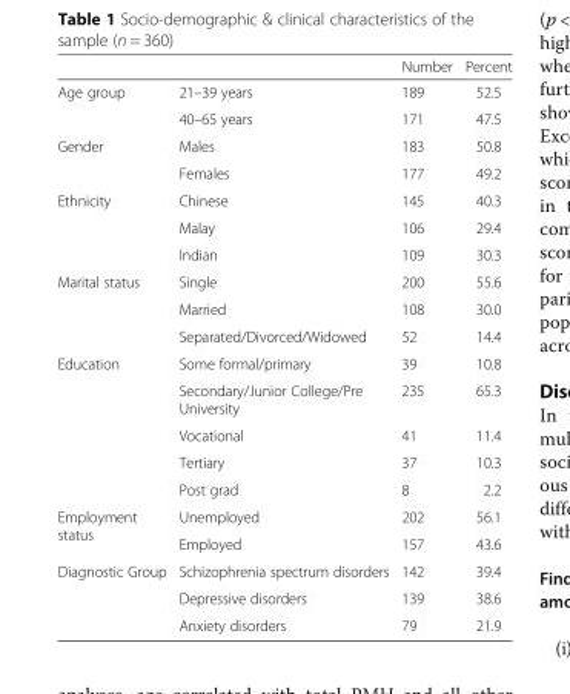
<table><thead><tr><td></td><td></td><td>Number</td><td>Percent</td></tr></thead><tbody><tr><td rowspan="2">Age group</td><td>21–39 years</td><td>189</td><td>52.5</td></tr><tr><td>40–65 years</td><td>171</td><td>47.5</td></tr><tr><td rowspan="2">Gender</td><td>Males</td><td>183</td><td>50.8</td></tr><tr><td>Females</td><td>177</td><td>49.2</td></tr><tr><td rowspan="3">Ethnicity</td><td>Chinese</td><td>145</td><td>40.3</td></tr><tr><td>Malay</td><td>106</td><td>29.4</td></tr><tr><td>Indian</td><td>109</td><td>30.3</td></tr><tr><td rowspan="3">Marital status</td><td>Single</td><td>200</td><td>55.6</td></tr><tr><td>Married</td><td>108</td><td>30.0</td></tr><tr><td>Separated/Divorced/Widowed</td><td>52</td><td>14.4</td></tr><tr><td rowspan="5">Education</td><td>Some formal/primary</td><td>39</td><td>10.8</td></tr><tr><td>Secondary/Junior College/Pre University</td><td>235</td><td>65.3</td></tr><tr><td>Vocational</td><td>41</td><td>11.4</td></tr><tr><td>Tertiary</td><td>37</td><td>10.3</td></tr><tr><td>Post grad</td><td>8</td><td>2.2</td></tr><tr><td rowspan="2">Employment status</td><td>Unemployed</td><td>202</td><td>56.1</td></tr><tr><td>Employed</td><td>157</td><td>43.6</td></tr><tr><td rowspan="3">Diagnostic Group</td><td>Schizophrenia spectrum disorders</td><td>142</td><td>39.4</td></tr><tr><td>Depressive disorders</td><td>139</td><td>38.6</td></tr><tr><td>Anxiety disorders</td><td>79</td><td>21.9</td></tr></tbody></table>